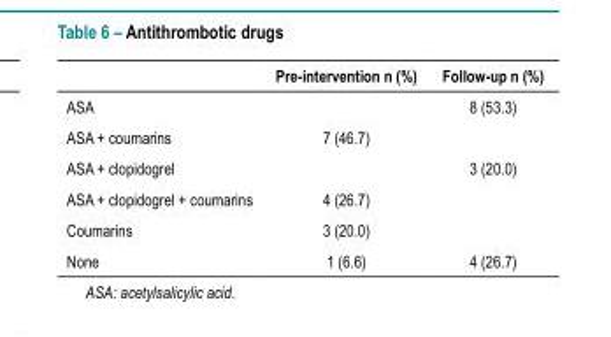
<table><thead><tr><td></td><td>Pre-intervention n (%)</td><td>Follow-up n (%)</td></tr></thead><tbody><tr><td>ASA</td><td></td><td>8 (53.3)</td></tr><tr><td>ASA + coumarins</td><td>7 (46.7)</td><td></td></tr><tr><td>ASA + clopidogrel</td><td></td><td>3 (20.0)</td></tr><tr><td>ASA + clopidogrel + coumarins</td><td>4 (26.7)</td><td></td></tr><tr><td>Coumarins</td><td>3 (20.0)</td><td></td></tr><tr><td>None</td><td>1 (6.6)</td><td>4 (26.7)</td></tr></tbody></table>